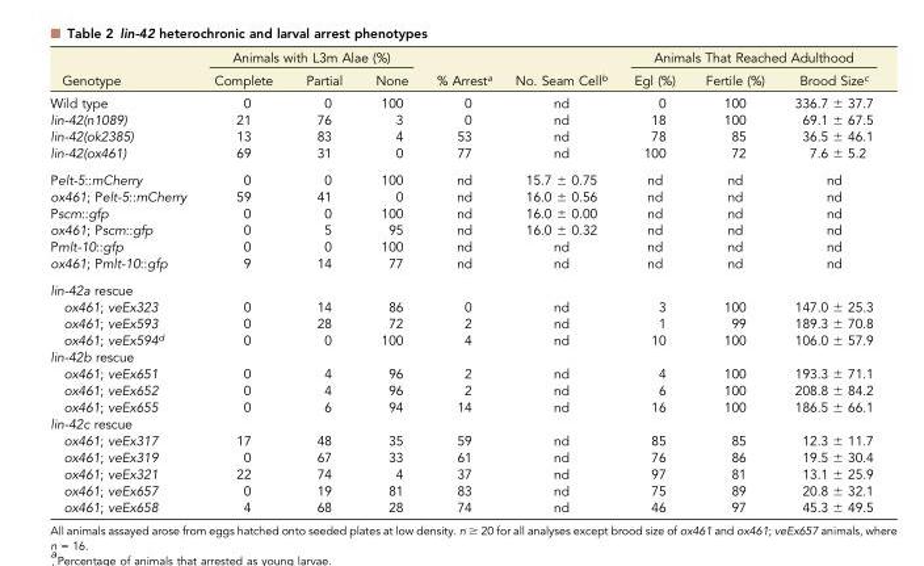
<table><thead><tr><td rowspan="2">Genotype</td><td colspan="3">Animals with L3m Alae (%)</td><td rowspan="2">% Arrest<sup>a</sup></td><td rowspan="2">No. Seam Cell<sup>b</sup></td><td colspan="3">Animals That Reached Adulthood</td></tr><tr><td>Complete</td><td>Partial</td><td>None</td><td>Egl (%)</td><td>Fertile (%)</td><td>Brood Size<sup>c</sup></td></tr></thead><tbody><tr><td>Wild type</td><td>0</td><td>0</td><td>100</td><td>0</td><td>nd</td><td>0</td><td>100</td><td>336.7 ± 37.7</td></tr><tr><td>lin-42(n1089)</td><td>21</td><td>76</td><td>3</td><td>0</td><td>nd</td><td>18</td><td>100</td><td>69.1 ± 67.5</td></tr><tr><td>lin-42(ok2385)</td><td>13</td><td>83</td><td>4</td><td>53</td><td>nd</td><td>78</td><td>85</td><td>36.5 ± 46.1</td></tr><tr><td>lin-42(ox461)</td><td>69</td><td>31</td><td>0</td><td>77</td><td>nd</td><td>100</td><td>72</td><td>7.6 ± 5.2</td></tr><tr><td>Pelt-5::mCherry</td><td>0</td><td>0</td><td>100</td><td>nd</td><td>15.7 ± 0.75</td><td>nd</td><td>nd</td><td>nd</td></tr><tr><td>ox461; Pelt-5::mCherry</td><td>59</td><td>41</td><td>0</td><td>nd</td><td>16.0 ± 0.56</td><td>nd</td><td>nd</td><td>nd</td></tr><tr><td>Pscm::gfp</td><td>0</td><td>0</td><td>100</td><td>nd</td><td>16.0 ± 0.00</td><td>nd</td><td>nd</td><td>nd</td></tr><tr><td>ox461; Pscm::gfp</td><td>0</td><td>5</td><td>95</td><td>nd</td><td>16.0 ± 0.32</td><td>nd</td><td>nd</td><td>nd</td></tr><tr><td>Pmlt-10::gfp</td><td>0</td><td>0</td><td>100</td><td>nd</td><td>nd</td><td>nd</td><td>nd</td><td>nd</td></tr><tr><td>ox461; Pmlt-10::gfp</td><td>9</td><td>14</td><td>77</td><td>nd</td><td>nd</td><td>nd</td><td>nd</td><td>nd</td></tr><tr><td colspan="9">lin-42a rescue</td></tr><tr><td>ox461; veEx323</td><td>0</td><td>14</td><td>86</td><td>0</td><td>nd</td><td>3</td><td>100</td><td>147.0 ± 25.3</td></tr><tr><td>ox461; veEx593</td><td>0</td><td>28</td><td>72</td><td>2</td><td>nd</td><td>1</td><td>99</td><td>189.3 ± 70.8</td></tr><tr><td>ox461; veEx594<sup>d</sup></td><td>0</td><td>0</td><td>100</td><td>4</td><td>nd</td><td>10</td><td>100</td><td>106.0 ± 57.9</td></tr><tr><td colspan="9">lin-42b rescue</td></tr><tr><td>ox461; veEx651</td><td>0</td><td>4</td><td>96</td><td>2</td><td>nd</td><td>4</td><td>100</td><td>193.3 ± 71.1</td></tr><tr><td>ox461; veEx652</td><td>0</td><td>4</td><td>96</td><td>2</td><td>nd</td><td>6</td><td>100</td><td>208.8 ± 84.2</td></tr><tr><td>ox461; veEx655</td><td>0</td><td>6</td><td>94</td><td>14</td><td>nd</td><td>16</td><td>100</td><td>186.5 ± 66.1</td></tr><tr><td colspan="9">lin-42c rescue</td></tr><tr><td>ox461; veEx317</td><td>17</td><td>48</td><td>35</td><td>59</td><td>nd</td><td>85</td><td>85</td><td>12.3 ± 11.7</td></tr><tr><td>ox461; veEx319</td><td>0</td><td>67</td><td>33</td><td>61</td><td>nd</td><td>76</td><td>86</td><td>19.5 ± 30.4</td></tr><tr><td>ox461; veEx321</td><td>22</td><td>74</td><td>4</td><td>37</td><td>nd</td><td>97</td><td>81</td><td>13.1 ± 25.9</td></tr><tr><td>ox461; veEx657</td><td>0</td><td>19</td><td>81</td><td>83</td><td>nd</td><td>75</td><td>89</td><td>20.8 ± 32.1</td></tr><tr><td>ox461; veEx658</td><td>4</td><td>68</td><td>28</td><td>74</td><td>nd</td><td>46</td><td>97</td><td>45.3 ± 49.5</td></tr></tbody></table>